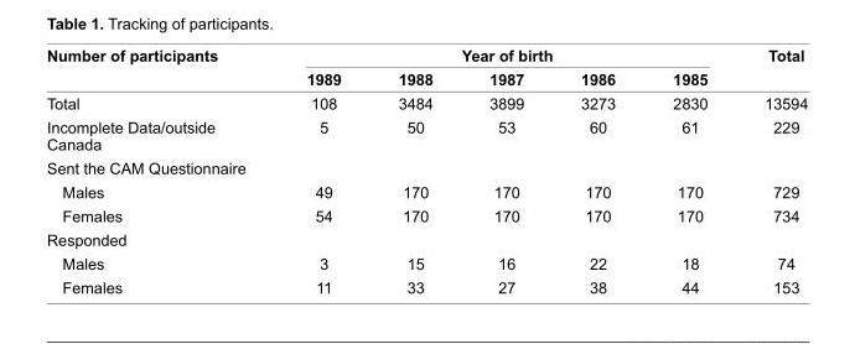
<table><thead><tr><td rowspan="2">Number of participants</td><td colspan="5">Year of birth</td><td rowspan="2">Total</td></tr><tr><td>1989</td><td>1988</td><td>1987</td><td>1986</td><td>1985</td></tr></thead><tbody><tr><td>Total</td><td>108</td><td>3484</td><td>3899</td><td>3273</td><td>2830</td><td>13594</td></tr><tr><td>Incomplete Data/outside Canada</td><td>5</td><td>50</td><td>53</td><td>60</td><td>61</td><td>229</td></tr><tr><td colspan="7">Sent the CAM Questionnaire</td></tr><tr><td>Males</td><td>49</td><td>170</td><td>170</td><td>170</td><td>170</td><td>729</td></tr><tr><td>Females</td><td>54</td><td>170</td><td>170</td><td>170</td><td>170</td><td>734</td></tr><tr><td colspan="7">Responded</td></tr><tr><td>Males</td><td>3</td><td>15</td><td>16</td><td>22</td><td>18</td><td>74</td></tr><tr><td>Females</td><td>11</td><td>33</td><td>27</td><td>38</td><td>44</td><td>153</td></tr></tbody></table>